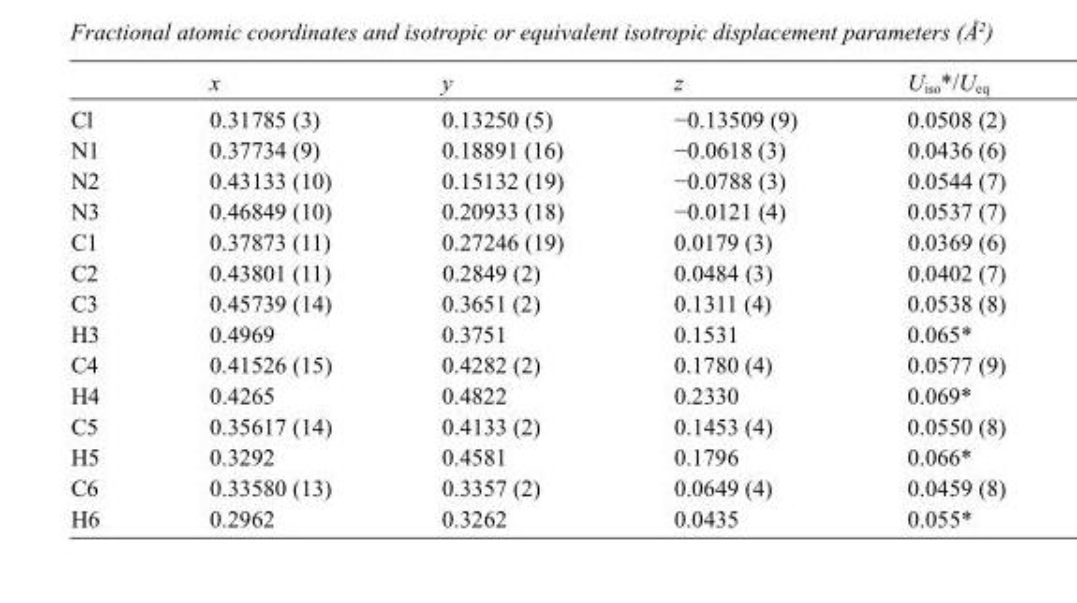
<table><thead><tr><td></td><td>x</td><td>y</td><td>z</td><td>U<sub>iso</sub>*/U<sub>eq</sub></td></tr></thead><tbody><tr><td>Cl</td><td>0.31785 (3)</td><td>0.13250 (5)</td><td>−0.13509 (9)</td><td>0.0508 (2)</td></tr><tr><td>N1</td><td>0.37734 (9)</td><td>0.18891 (16)</td><td>−0.0618 (3)</td><td>0.0436 (6)</td></tr><tr><td>N2</td><td>0.43133 (10)</td><td>0.15132 (19)</td><td>−0.0788 (3)</td><td>0.0544 (7)</td></tr><tr><td>N3</td><td>0.46849 (10)</td><td>0.20933 (18)</td><td>−0.0121 (4)</td><td>0.0537 (7)</td></tr><tr><td>C1</td><td>0.37873 (11)</td><td>0.27246 (19)</td><td>0.0179 (3)</td><td>0.0369 (6)</td></tr><tr><td>C2</td><td>0.43801 (11)</td><td>0.2849 (2)</td><td>0.0484 (3)</td><td>0.0402 (7)</td></tr><tr><td>C3</td><td>0.45739 (14)</td><td>0.3651 (2)</td><td>0.1311 (4)</td><td>0.0538 (8)</td></tr><tr><td>H3</td><td>0.4969</td><td>0.3751</td><td>0.1531</td><td>0.065*</td></tr><tr><td>C4</td><td>0.41526 (15)</td><td>0.4282 (2)</td><td>0.1780 (4)</td><td>0.0577 (9)</td></tr><tr><td>H4</td><td>0.4265</td><td>0.4822</td><td>0.2330</td><td>0.069*</td></tr><tr><td>C5</td><td>0.35617 (14)</td><td>0.4133 (2)</td><td>0.1453 (4)</td><td>0.0550 (8)</td></tr><tr><td>H5</td><td>0.3292</td><td>0.4581</td><td>0.1796</td><td>0.066*</td></tr><tr><td>C6</td><td>0.33580 (13)</td><td>0.3357 (2)</td><td>0.0649 (4)</td><td>0.0459 (8)</td></tr><tr><td>H6</td><td>0.2962</td><td>0.3262</td><td>0.0435</td><td>0.055*</td></tr></tbody></table>